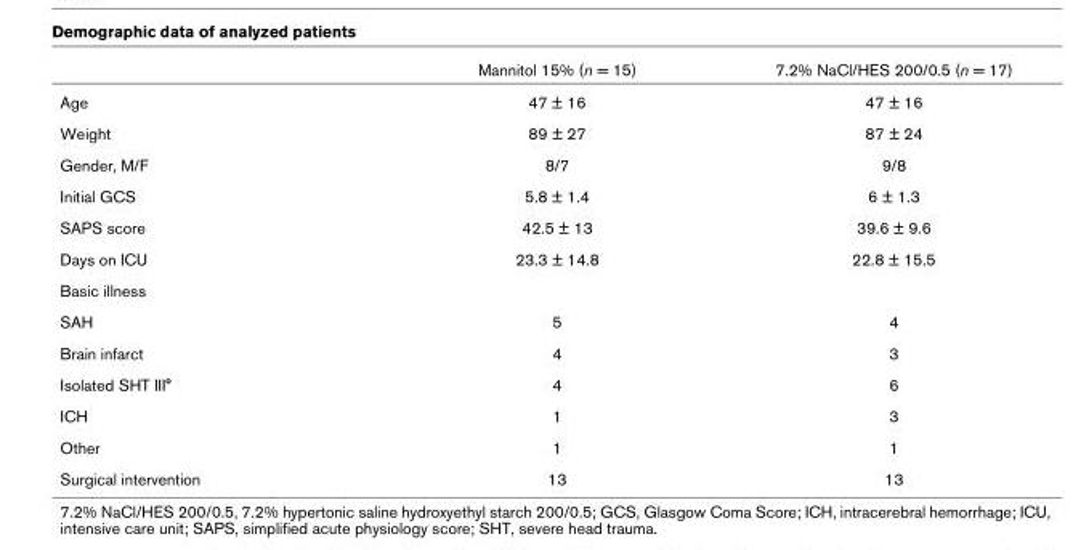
<table><thead><tr><td></td><td>Mannitol 15% (n = 15)</td><td>7.2% NaCl/HES 200/0.5 (n = 17)</td></tr></thead><tbody><tr><td>Age</td><td>47 ± 16</td><td>47 ± 16</td></tr><tr><td>Weight</td><td>89 ± 27</td><td>87 ± 24</td></tr><tr><td>Gender, M/F</td><td>8/7</td><td>9/8</td></tr><tr><td>Initial GCS</td><td>5.8 ± 1.4</td><td>6 ± 1.3</td></tr><tr><td>SAPS score</td><td>42.5 ± 13</td><td>39.6 ± 9.6</td></tr><tr><td>Days on ICU</td><td>23.3 ± 14.8</td><td>22.8 ± 15.5</td></tr><tr><td colspan="3">Basic illness</td></tr><tr><td>SAH</td><td>5</td><td>4</td></tr><tr><td>Brain infarct</td><td>4</td><td>3</td></tr><tr><td>Isolated SHT III°</td><td>4</td><td>6</td></tr><tr><td>ICH</td><td>1</td><td>3</td></tr><tr><td>Other</td><td>1</td><td>1</td></tr><tr><td>Surgical intervention</td><td>13</td><td>13</td></tr></tbody></table>